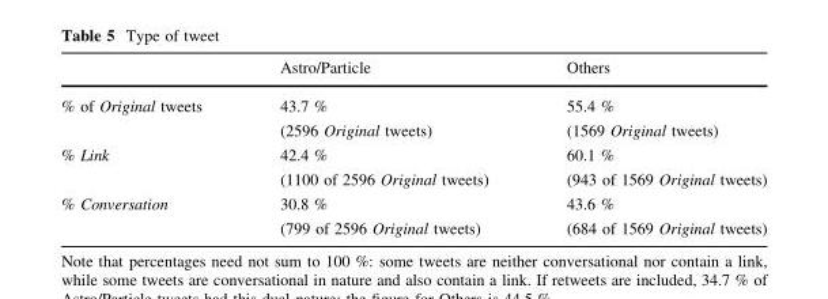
<table><thead><tr><td></td><td>Astro/Particle</td><td>Others</td></tr></thead><tbody><tr><td rowspan="2">% of Original tweets</td><td>43.7 %</td><td>55.4 %</td></tr><tr><td>(2596 Original tweets)</td><td>(1569 Original tweets)</td></tr><tr><td rowspan="2">% Link</td><td>42.4 %</td><td>60.1 %</td></tr><tr><td>(1100 of 2596 Original tweets)</td><td>(943 of 1569 Original tweets)</td></tr><tr><td rowspan="2">% Conversation</td><td>30.8 %</td><td>43.6 %</td></tr><tr><td>(799 of 2596 Original tweets)</td><td>(684 of 1569 Original tweets)</td></tr></tbody></table>